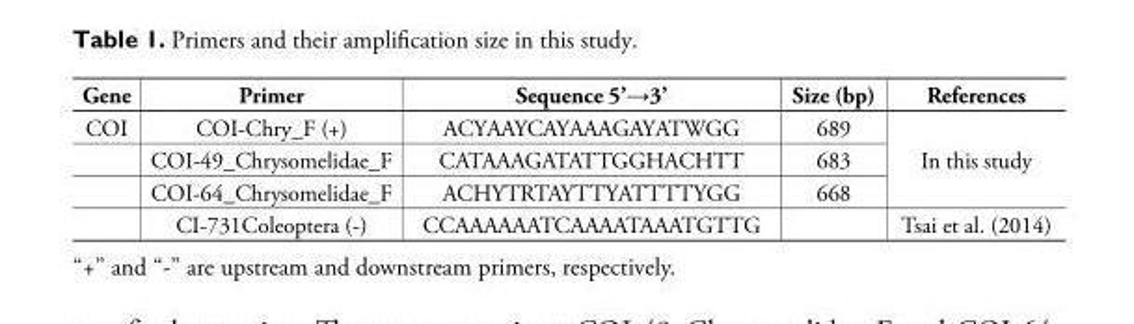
<table><thead><tr><td>Gene</td><td>Primer</td><td>Sequence 5’→3’</td><td>Size (bp)</td><td>References</td></tr></thead><tbody><tr><td rowspan="4">COI</td><td>COI-Chry_F (+)</td><td>ACYAAYCAYAAAGAYATWGG</td><td>689</td><td rowspan="3">In this study</td></tr><tr><td>COI-49_Chrysomelidae_F</td><td>CATAAAGATATTGGHACHTT</td><td>683</td></tr><tr><td>COI-64_Chrysomelidae_F</td><td>ACHYTRTAYTTYATTTTYGG</td><td>668</td></tr><tr><td>CI-731Coleoptera (-)</td><td>CCAAAAAATCAAAATAAATGTTG</td><td></td><td>Tsai et al. (2014)</td></tr></tbody></table>